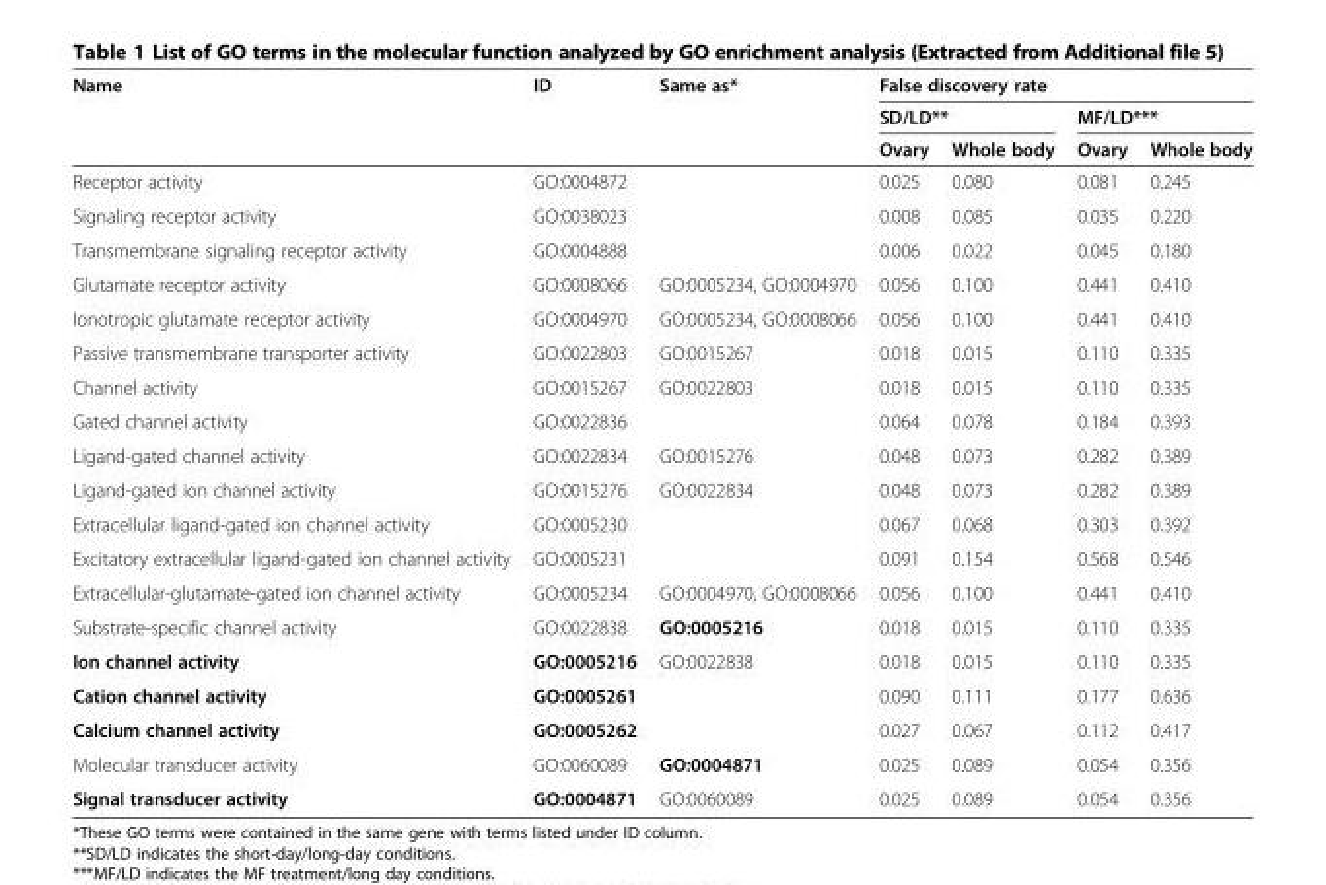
<table><thead><tr><td rowspan="3">Name</td><td rowspan="3">ID</td><td rowspan="3">Same as*</td><td colspan="4">False discovery rate</td></tr><tr><td colspan="2">SD/LD**</td><td colspan="2">MF/LD***</td></tr><tr><td>Ovary</td><td>Whole body</td><td>Ovary</td><td>Whole body</td></tr></thead><tbody><tr><td>Receptor activity</td><td>GO:0004872</td><td></td><td>0.025</td><td>0.080</td><td>0.081</td><td>0.245</td></tr><tr><td>Signaling receptor activity</td><td>GO:0038023</td><td></td><td>0.008</td><td>0.085</td><td>0.035</td><td>0.220</td></tr><tr><td>Transmembrane signaling receptor activity</td><td>GO:0004888</td><td></td><td>0.006</td><td>0.022</td><td>0.045</td><td>0.180</td></tr><tr><td>Glutamate receptor activity</td><td>GO:0008066</td><td>GO:0005234, GO:0004970</td><td>0.056</td><td>0.100</td><td>0.441</td><td>0.410</td></tr><tr><td>Ionotropic glutamate receptor activity</td><td>GO:0004970</td><td>GO:0005234, GO:0008066</td><td>0.056</td><td>0.100</td><td>0.441</td><td>0.410</td></tr><tr><td>Passive transmembrane transporter activity</td><td>GO:0022803</td><td>GO:0015267</td><td>0.018</td><td>0.015</td><td>0.110</td><td>0.335</td></tr><tr><td>Channel activity</td><td>GO:0015267</td><td>GO:0022803</td><td>0.018</td><td>0.015</td><td>0.110</td><td>0.335</td></tr><tr><td>Gated channel activity</td><td>GO:0022836</td><td></td><td>0.064</td><td>0.078</td><td>0.184</td><td>0.393</td></tr><tr><td>Ligand-gated channel activity</td><td>GO:0022834</td><td>GO:0015276</td><td>0.048</td><td>0.073</td><td>0.282</td><td>0.389</td></tr><tr><td>Ligand-gated ion channel activity</td><td>GO:0015276</td><td>GO:0022834</td><td>0.048</td><td>0.073</td><td>0.282</td><td>0.389</td></tr><tr><td>Extracellular ligand-gated ion channel activity</td><td>GO:0005230</td><td></td><td>0.067</td><td>0.068</td><td>0.303</td><td>0.392</td></tr><tr><td>Excitatory extracellular ligand-gated ion channel activity</td><td>GO:0005231</td><td></td><td>0.091</td><td>0.154</td><td>0.568</td><td>0.546</td></tr><tr><td>Extracellular-glutamate-gated ion channel activity</td><td>GO:0005234</td><td>GO:0004970, GO:0008066</td><td>0.056</td><td>0.100</td><td>0.441</td><td>0.410</td></tr><tr><td>Substrate-specific channel activity</td><td>GO:0022838</td><td>GO:0005216</td><td>0.018</td><td>0.015</td><td>0.110</td><td>0.335</td></tr><tr><td>Ion channel activity</td><td>GO:0005216</td><td>GO:0022838</td><td>0.018</td><td>0.015</td><td>0.110</td><td>0.335</td></tr><tr><td>Cation channel activity</td><td>GO:0005261</td><td></td><td>0.090</td><td>0.111</td><td>0.177</td><td>0.636</td></tr><tr><td>Calcium channel activity</td><td>GO:0005262</td><td></td><td>0.027</td><td>0.067</td><td>0.112</td><td>0.417</td></tr><tr><td>Molecular transducer activity</td><td>GO:0060089</td><td>GO:0004871</td><td>0.025</td><td>0.089</td><td>0.054</td><td>0.356</td></tr><tr><td>Signal transducer activity</td><td>GO:0004871</td><td>GO:0060089</td><td>0.025</td><td>0.089</td><td>0.054</td><td>0.356</td></tr></tbody></table>